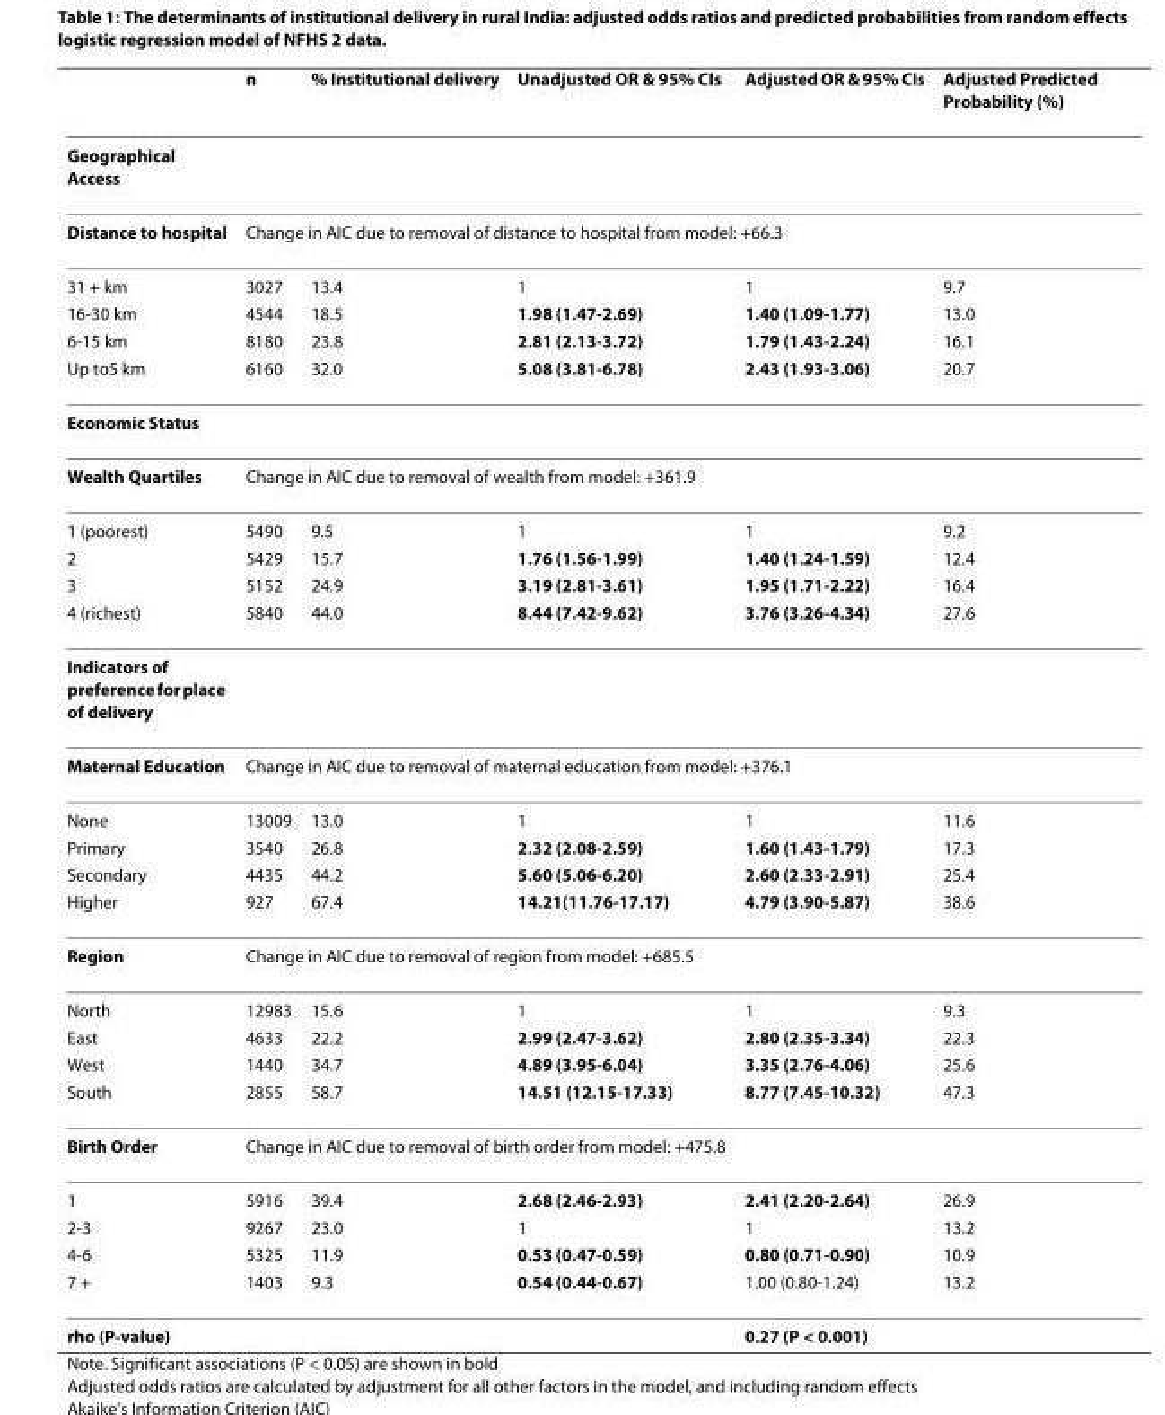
<table><thead><tr><td></td><td>n</td><td>% Institutional delivery</td><td>Unadjusted OR &amp; 95% CIs</td><td>Adjusted OR &amp; 95% CIs</td><td>Adjusted Predicted Probability (%)</td></tr></thead><tbody><tr><td colspan="6">Geographical Access</td></tr><tr><td>Distance to hospital</td><td colspan="5">Change in AIC due to removal of distance to hospital from model: +66.3</td></tr><tr><td>31 + km</td><td>3027</td><td>13.4</td><td>1</td><td>1</td><td>9.7</td></tr><tr><td>16-30 km</td><td>4544</td><td>18.5</td><td>1.98 (1.47-2.69)</td><td>1.40 (1.09-1.77)</td><td>13.0</td></tr><tr><td>6-15 km</td><td>8180</td><td>23.8</td><td>2.81 (2.13-3.72)</td><td>1.79 (1.43-2.24)</td><td>16.1</td></tr><tr><td>Up to5 km</td><td>6160</td><td>32.0</td><td>5.08 (3.81-6.78)</td><td>2.43 (1.93-3.06)</td><td>20.7</td></tr><tr><td colspan="6">Economic Status</td></tr><tr><td>Wealth Quartiles</td><td colspan="5">Change in AIC due to removal of wealth from model: +361.9</td></tr><tr><td>1 (poorest)</td><td>5490</td><td>9.5</td><td>1</td><td>1</td><td>9.2</td></tr><tr><td>2</td><td>5429</td><td>15.7</td><td>1.76 (1.56-1.99)</td><td>1.40 (1.24-1.59)</td><td>12.4</td></tr><tr><td>3</td><td>5152</td><td>24.9</td><td>3.19 (2.81-3.61)</td><td>1.95 (1.71-2.22)</td><td>16.4</td></tr><tr><td>4 (richest)</td><td>5840</td><td>44.0</td><td>8.44 (7.42-9.62)</td><td>3.76 (3.26-4.34)</td><td>27.6</td></tr><tr><td colspan="6">Indicators of preference for place of delivery</td></tr><tr><td>Maternal Education</td><td colspan="5">Change in AIC due to removal of maternal education from model: +376.1</td></tr><tr><td>None</td><td>13009</td><td>13.0</td><td>1</td><td>1</td><td>11.6</td></tr><tr><td>Primary</td><td>3540</td><td>26.8</td><td>2.32 (2.08-2.59)</td><td>1.60 (1.43-1.79)</td><td>17.3</td></tr><tr><td>Secondary</td><td>4435</td><td>44.2</td><td>5.60 (5.06-6.20)</td><td>2.60 (2.33-2.91)</td><td>25.4</td></tr><tr><td>Higher</td><td>927</td><td>67.4</td><td>14.21(11.76-17.17)</td><td>4.79 (3.90-5.87)</td><td>38.6</td></tr><tr><td>Region</td><td colspan="5">Change in AIC due to removal of region from model: +685.5</td></tr><tr><td>North</td><td>12983</td><td>15.6</td><td>1</td><td>1</td><td>9.3</td></tr><tr><td>East</td><td>4633</td><td>22.2</td><td>2.99 (2.47-3.62)</td><td>2.80 (2.35-3.34)</td><td>22.3</td></tr><tr><td>West</td><td>1440</td><td>34.7</td><td>4.89 (3.95-6.04)</td><td>3.35 (2.76-4.06)</td><td>25.6</td></tr><tr><td>South</td><td>2855</td><td>58.7</td><td>14.51 (12.15-17.33)</td><td>8.77 (7.45-10.32)</td><td>47.3</td></tr><tr><td>Birth Order</td><td colspan="5">Change in AIC due to removal of birth order from model: +475.8</td></tr><tr><td>1</td><td>5916</td><td>39.4</td><td>2.68 (2.46-2.93)</td><td>2.41 (2.20-2.64)</td><td>26.9</td></tr><tr><td>2-3</td><td>9267</td><td>23.0</td><td>1</td><td>1</td><td>13.2</td></tr><tr><td>4-6</td><td>5325</td><td>11.9</td><td>0.53 (0.47-0.59)</td><td>0.80 (0.71-0.90)</td><td>10.9</td></tr><tr><td>7 +</td><td>1403</td><td>9.3</td><td>0.54 (0.44-0.67)</td><td>1.00 (0.80-1.24)</td><td>13.2</td></tr><tr><td>rho (P-value)</td><td></td><td></td><td></td><td>0.27 (P &lt; 0.001)</td><td></td></tr></tbody></table>